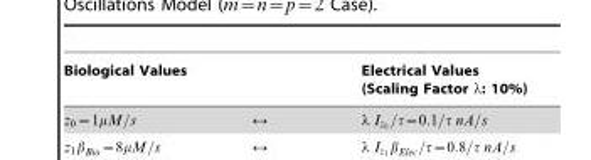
<table><thead><tr><td>Biological Values</td><td>Electrical Values (Scaling Factor l: 10%)</td></tr></thead><tbody></tbody></table>